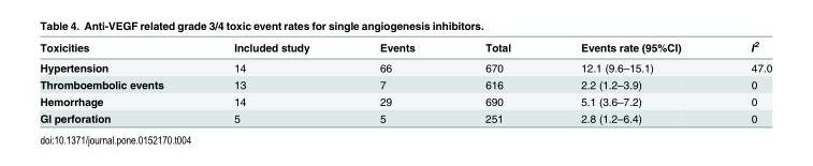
<table><thead><tr><td>Toxicities</td><td>Included study</td><td>Events</td><td>Total</td><td>Events rate (95%CI)</td><td>I<sup>2</sup></td></tr></thead><tbody><tr><td>Hypertension</td><td>14</td><td>66</td><td>670</td><td>12.1 (9.6–15.1)</td><td>47.0</td></tr><tr><td>Thromboembolic events</td><td>13</td><td>7</td><td>616</td><td>2.2 (1.2–3.9)</td><td>0</td></tr><tr><td>Hemorrhage</td><td>14</td><td>29</td><td>690</td><td>5.1 (3.6–7.2)</td><td>0</td></tr><tr><td>GI perforation</td><td>5</td><td>5</td><td>251</td><td>2.8 (1.2–6.4)</td><td>0</td></tr></tbody></table>